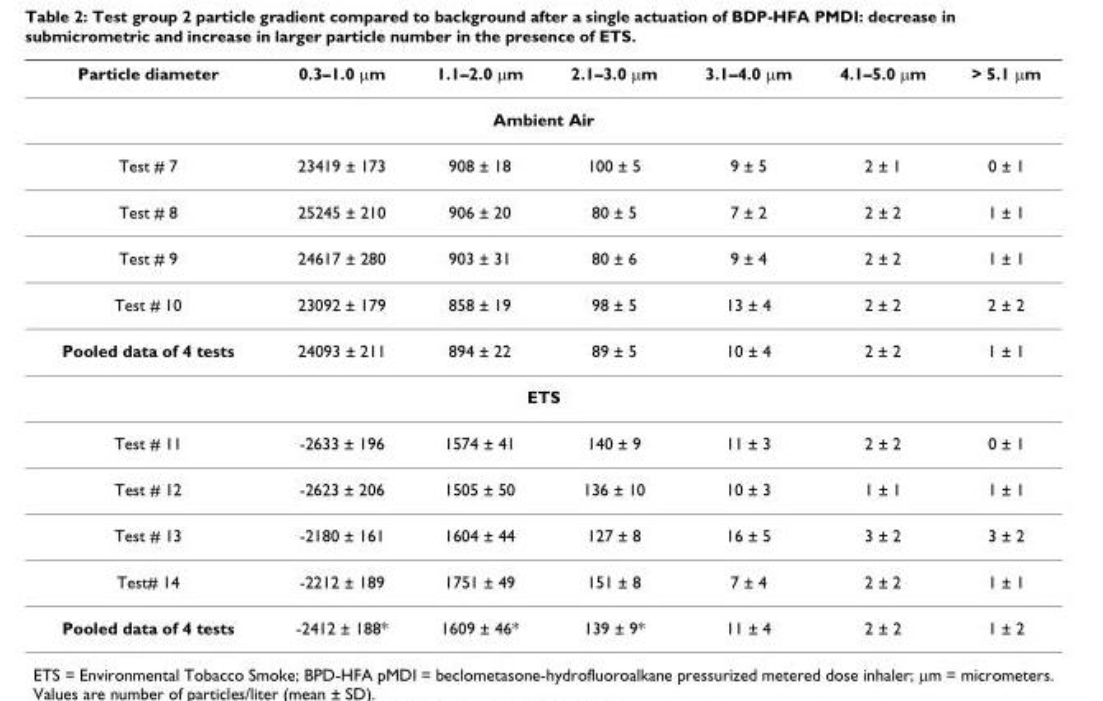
<table><thead><tr><td>Particle diameter</td><td>0.3–1.0 μm</td><td>1.1–2.0 μm</td><td>2.1–3.0 μm</td><td>3.1–4.0 μm</td><td>4.1–5.0 μm</td><td>&gt; 5.1 μm</td></tr></thead><tbody><tr><td colspan="7">Ambient Air</td></tr><tr><td>Test # 7</td><td>23419 ± 173</td><td>908 ± 18</td><td>100 ± 5</td><td>9 ± 5</td><td>2 ± 1</td><td>0 ± 1</td></tr><tr><td>Test # 8</td><td>25245 ± 210</td><td>906 ± 20</td><td>80 ± 5</td><td>7 ± 2</td><td>2 ± 2</td><td>1 ± 1</td></tr><tr><td>Test # 9</td><td>24617 ± 280</td><td>903 ± 31</td><td>80 ± 6</td><td>9 ± 4</td><td>2 ± 2</td><td>1 ± 1</td></tr><tr><td>Test # 10</td><td>23092 ± 179</td><td>858 ± 19</td><td>98 ± 5</td><td>13 ± 4</td><td>2 ± 2</td><td>2 ± 2</td></tr><tr><td>Pooled data of 4 tests</td><td>24093 ± 211</td><td>894 ± 22</td><td>89 ± 5</td><td>10 ± 4</td><td>2 ± 2</td><td>1 ± 1</td></tr><tr><td colspan="7">ETS</td></tr><tr><td>Test # 11</td><td>-2633 ± 196</td><td>1574 ± 41</td><td>140 ± 9</td><td>11 ± 3</td><td>2 ± 2</td><td>0 ± 1</td></tr><tr><td>Test # 12</td><td>-2623 ± 206</td><td>1505 ± 50</td><td>136 ± 10</td><td>10 ± 3</td><td>1 ± 1</td><td>1 ± 1</td></tr><tr><td>Test # 13</td><td>-2180 ± 161</td><td>1604 ± 44</td><td>127 ± 8</td><td>16 ± 5</td><td>3 ± 2</td><td>3 ± 2</td></tr><tr><td>Test# 14</td><td>-2212 ± 189</td><td>1751 ± 49</td><td>151 ± 8</td><td>7 ± 4</td><td>2 ± 2</td><td>1 ± 1</td></tr><tr><td>Pooled data of 4 tests</td><td>-2412 ± 188*</td><td>1609 ± 46*</td><td>139 ± 9*</td><td>11 ± 4</td><td>2 ± 2</td><td>1 ± 2</td></tr></tbody></table>